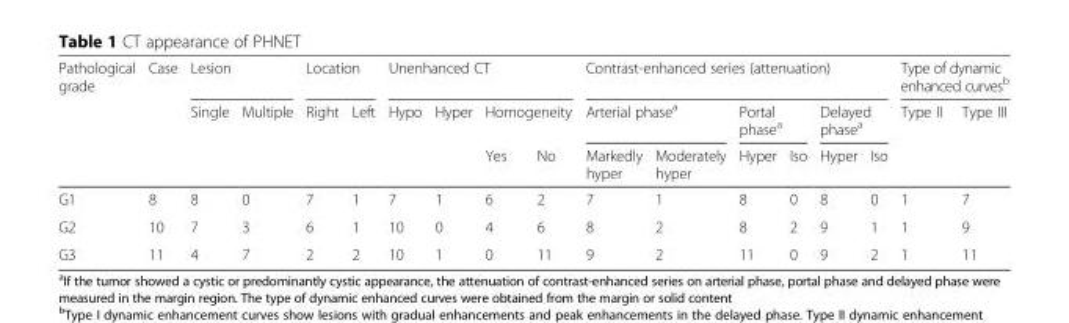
<table><thead><tr><td rowspan="3">Pathological grade</td><td rowspan="3">Case</td><td colspan="2">Lesion</td><td colspan="2">Location</td><td colspan="4">Unenhanced CT</td><td colspan="6">Contrast-enhanced series (attenuation)</td><td colspan="2">Type of dynamic enhanced curves<sup>b</sup></td></tr><tr><td rowspan="2">Single</td><td rowspan="2">Multiple</td><td rowspan="2">Right</td><td rowspan="2">Left</td><td rowspan="2">Hypo</td><td rowspan="2">Hyper</td><td colspan="2">Homogeneity</td><td colspan="2">Arterial phase<sup>a</sup></td><td colspan="2">Portal phase<sup>a</sup></td><td colspan="2">Delayed phase<sup>a</sup></td><td rowspan="2">Type II</td><td rowspan="2">Type III</td></tr><tr><td>Yes</td><td>No</td><td>Markedly hyper</td><td>Moderately hyper</td><td>Hyper</td><td>Iso</td><td>Hyper</td><td>Iso</td></tr></thead><tbody><tr><td>G1</td><td>8</td><td>8</td><td>0</td><td>7</td><td>1</td><td>7</td><td>1</td><td>6</td><td>2</td><td>7</td><td>1</td><td>8</td><td>0</td><td>8</td><td>0</td><td>1</td><td>7</td></tr><tr><td>G2</td><td>10</td><td>7</td><td>3</td><td>6</td><td>1</td><td>10</td><td>0</td><td>4</td><td>6</td><td>8</td><td>2</td><td>8</td><td>2</td><td>9</td><td>1</td><td>1</td><td>9</td></tr><tr><td>G3</td><td>11</td><td>4</td><td>7</td><td>2</td><td>2</td><td>10</td><td>1</td><td>0</td><td>11</td><td>9</td><td>2</td><td>11</td><td>0</td><td>9</td><td>2</td><td>1</td><td>11</td></tr></tbody></table>